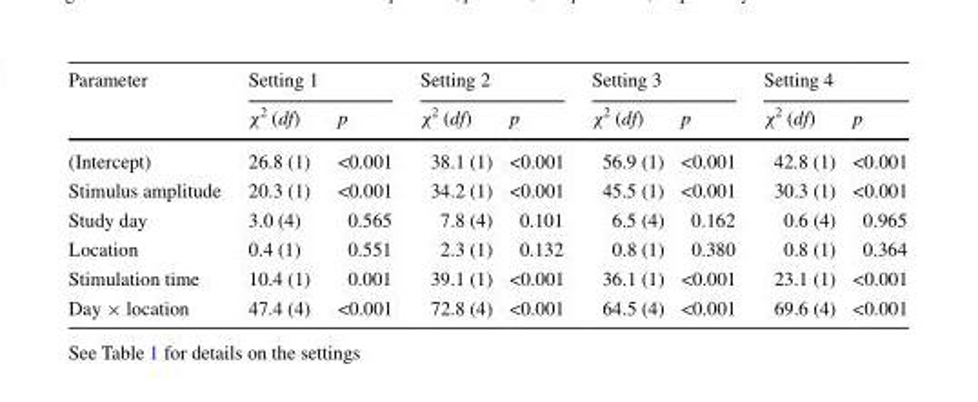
<table><thead><tr><td rowspan="2">Parameter</td><td colspan="2">Setting 1</td><td colspan="2">Setting 2</td><td colspan="2">Setting 3</td><td colspan="2">Setting 4</td></tr><tr><td>χ<sup>2</sup> (df)</td><td>p</td><td>χ<sup>2</sup> (df)</td><td>p</td><td>χ<sup>2</sup> (df)</td><td>p</td><td>χ<sup>2</sup> (df)</td><td>p</td></tr></thead><tbody><tr><td>(Intercept)</td><td>26.8 (1)</td><td>&lt;0.001</td><td>38.1 (1)</td><td>&lt;0.001</td><td>56.9 (1)</td><td>&lt;0.001</td><td>42.8 (1)</td><td>&lt;0.001</td></tr><tr><td>Stimulus amplitude</td><td>20.3 (1)</td><td>&lt;0.001</td><td>34.2 (1)</td><td>&lt;0.001</td><td>45.5 (1)</td><td>&lt;0.001</td><td>30.3 (1)</td><td>&lt;0.001</td></tr><tr><td>Study day</td><td>3.0 (4)</td><td>0.565</td><td>7.8 (4)</td><td>0.101</td><td>6.5 (4)</td><td>0.162</td><td>0.6 (4)</td><td>0.965</td></tr><tr><td>Location</td><td>0.4 (1)</td><td>0.551</td><td>2.3 (1)</td><td>0.132</td><td>0.8 (1)</td><td>0.380</td><td>0.8 (1)</td><td>0.364</td></tr><tr><td>Stimulation time</td><td>10.4 (1)</td><td>0.001</td><td>39.1 (1)</td><td>&lt;0.001</td><td>36.1 (1)</td><td>&lt;0.001</td><td>23.1 (1)</td><td>&lt;0.001</td></tr><tr><td>Day × location</td><td>47.4 (4)</td><td>&lt;0.001</td><td>72.8 (4)</td><td>&lt;0.001</td><td>64.5 (4)</td><td>&lt;0.001</td><td>69.6 (4)</td><td>&lt;0.001</td></tr></tbody></table>